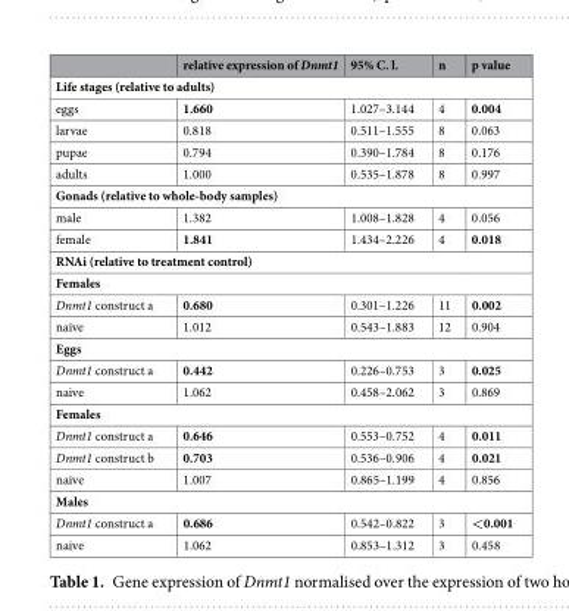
<table><thead><tr><td></td><td>relative expression of Dnmt1</td><td>95% C. l.</td><td>n</td><td>p value</td></tr></thead><tbody><tr><td colspan="5">Life stages (relative to adults)</td></tr><tr><td>eggs</td><td>1.660</td><td>1.027–3.144</td><td>4</td><td>0.004</td></tr><tr><td>larvae</td><td>0.818</td><td>0.511–1.555</td><td>8</td><td>0.063</td></tr><tr><td>pupae</td><td>0.794</td><td>0.390–1.784</td><td>8</td><td>0.176</td></tr><tr><td>adults</td><td>1.000</td><td>0.535–1.878</td><td>8</td><td>0.997</td></tr><tr><td colspan="5">Gonads (relative to whole-body samples)</td></tr><tr><td>male</td><td>1.382</td><td>1.008–1.828</td><td>4</td><td>0.056</td></tr><tr><td>female</td><td>1.841</td><td>1.434–2.226</td><td>4</td><td>0.018</td></tr><tr><td colspan="5">RNAi (relative to treatment control)</td></tr><tr><td colspan="5">Females</td></tr><tr><td>Dnmt1 construct a</td><td>0.680</td><td>0.301–1.226</td><td>11</td><td>0.002</td></tr><tr><td>naive</td><td>1.012</td><td>0.543–1.883</td><td>12</td><td>0.904</td></tr><tr><td colspan="5">Eggs</td></tr><tr><td>Dnmt1 construct a</td><td>0.442</td><td>0.226–0.753</td><td>3</td><td>0.025</td></tr><tr><td>naive</td><td>1.062</td><td>0.458–2.062</td><td>3</td><td>0.869</td></tr><tr><td colspan="5">Females</td></tr><tr><td>Dnmt1 construct a</td><td>0.646</td><td>0.553–0.752</td><td>4</td><td>0.011</td></tr><tr><td>Dnmt1 construct b</td><td>0.703</td><td>0.536–0.906</td><td>4</td><td>0.021</td></tr><tr><td>naive</td><td>1.007</td><td>0.865–1.199</td><td>4</td><td>0.856</td></tr><tr><td colspan="5">Males</td></tr><tr><td>Dnmt1 construct a</td><td>0.686</td><td>0.542–0.822</td><td>3</td><td>&lt;0.001</td></tr><tr><td>naive</td><td>1.062</td><td>0.853–1.312</td><td>3</td><td>0.458</td></tr></tbody></table>